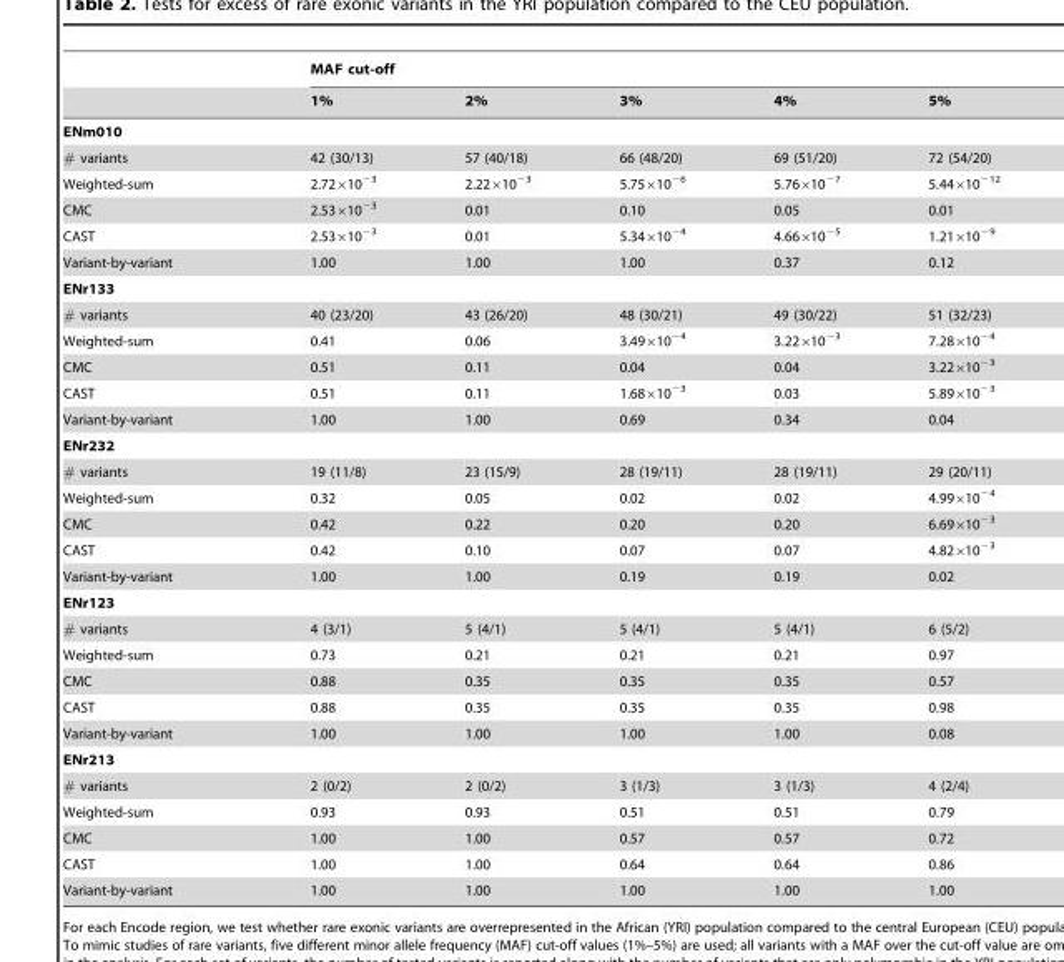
<table><thead><tr><td rowspan="2"></td><td colspan="5">MAF cut-off</td></tr><tr><td>1%</td><td>2%</td><td>3%</td><td>4%</td><td>5%</td></tr></thead><tbody><tr><td colspan="6">ENm010</td></tr><tr><td># variants</td><td>42 (30/13)</td><td>57 (40/18)</td><td>66 (48/20)</td><td>69 (51/20)</td><td>72 (54/20)</td></tr><tr><td>Weighted-sum</td><td>2.72×10<sup>−3</sup></td><td>2.22×10<sup>−3</sup></td><td>5.75×10<sup>−6</sup></td><td>5.76×10<sup>−7</sup></td><td>5.44×10<sup>−12</sup></td></tr><tr><td>CMC</td><td>2.53×10<sup>−3</sup></td><td>0.01</td><td>0.10</td><td>0.05</td><td>0.01</td></tr><tr><td>CAST</td><td>2.53×10<sup>−3</sup></td><td>0.01</td><td>5.34×10<sup>−4</sup></td><td>4.66×10<sup>−5</sup></td><td>1.21×10<sup>−9</sup></td></tr><tr><td>Variant-by-variant</td><td>1.00</td><td>1.00</td><td>1.00</td><td>0.37</td><td>0.12</td></tr><tr><td colspan="6">ENr133</td></tr><tr><td># variants</td><td>40 (23/20)</td><td>43 (26/20)</td><td>48 (30/21)</td><td>49 (30/22)</td><td>51 (32/23)</td></tr><tr><td>Weighted-sum</td><td>0.41</td><td>0.06</td><td>3.49×10<sup>−4</sup></td><td>3.22×10<sup>−3</sup></td><td>7.28×10<sup>−4</sup></td></tr><tr><td>CMC</td><td>0.51</td><td>0.11</td><td>0.04</td><td>0.04</td><td>3.22×10<sup>−3</sup></td></tr><tr><td>CAST</td><td>0.51</td><td>0.11</td><td>1.68×10<sup>−3</sup></td><td>0.03</td><td>5.89×10<sup>−3</sup></td></tr><tr><td>Variant-by-variant</td><td>1.00</td><td>1.00</td><td>0.69</td><td>0.34</td><td>0.04</td></tr><tr><td colspan="6">ENr232</td></tr><tr><td># variants</td><td>19 (11/8)</td><td>23 (15/9)</td><td>28 (19/11)</td><td>28 (19/11)</td><td>29 (20/11)</td></tr><tr><td>Weighted-sum</td><td>0.32</td><td>0.05</td><td>0.02</td><td>0.02</td><td>4.99×10<sup>−4</sup></td></tr><tr><td>CMC</td><td>0.42</td><td>0.22</td><td>0.20</td><td>0.20</td><td>6.69×10<sup>−3</sup></td></tr><tr><td>CAST</td><td>0.42</td><td>0.10</td><td>0.07</td><td>0.07</td><td>4.82×10<sup>−3</sup></td></tr><tr><td>Variant-by-variant</td><td>1.00</td><td>1.00</td><td>0.19</td><td>0.19</td><td>0.02</td></tr><tr><td colspan="6">ENr123</td></tr><tr><td># variants</td><td>4 (3/1)</td><td>5 (4/1)</td><td>5 (4/1)</td><td>5 (4/1)</td><td>6 (5/2)</td></tr><tr><td>Weighted-sum</td><td>0.73</td><td>0.21</td><td>0.21</td><td>0.21</td><td>0.97</td></tr><tr><td>CMC</td><td>0.88</td><td>0.35</td><td>0.35</td><td>0.35</td><td>0.57</td></tr><tr><td>CAST</td><td>0.88</td><td>0.35</td><td>0.35</td><td>0.35</td><td>0.98</td></tr><tr><td>Variant-by-variant</td><td>1.00</td><td>1.00</td><td>1.00</td><td>1.00</td><td>0.08</td></tr><tr><td colspan="6">ENr213</td></tr><tr><td># variants</td><td>2 (0/2)</td><td>2 (0/2)</td><td>3 (1/3)</td><td>3 (1/3)</td><td>4 (2/4)</td></tr><tr><td>Weighted-sum</td><td>0.93</td><td>0.93</td><td>0.51</td><td>0.51</td><td>0.79</td></tr><tr><td>CMC</td><td>1.00</td><td>1.00</td><td>0.57</td><td>0.57</td><td>0.72</td></tr><tr><td>CAST</td><td>1.00</td><td>1.00</td><td>0.64</td><td>0.64</td><td>0.86</td></tr><tr><td>Variant-by-variant</td><td>1.00</td><td>1.00</td><td>1.00</td><td>1.00</td><td>1.00</td></tr></tbody></table>